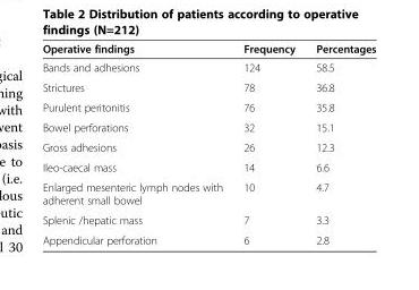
<table><thead><tr><td>Operative findings</td><td>Frequency</td><td>Percentages</td></tr></thead><tbody><tr><td>Bands and adhesions</td><td>124</td><td>58.5</td></tr><tr><td>Strictures</td><td>78</td><td>36.8</td></tr><tr><td>Purulent peritonitis</td><td>76</td><td>35.8</td></tr><tr><td>Bowel perforations</td><td>32</td><td>15.1</td></tr><tr><td>Gross adhesions</td><td>26</td><td>12.3</td></tr><tr><td>Ileo-caecal mass</td><td>14</td><td>6.6</td></tr><tr><td>Enlarged mesenteric lymph nodes with adherent small bowel</td><td>10</td><td>4.7</td></tr><tr><td>Splenic /hepatic mass</td><td>7</td><td>3.3</td></tr><tr><td>Appendicular perforation</td><td>6</td><td>2.8</td></tr></tbody></table>